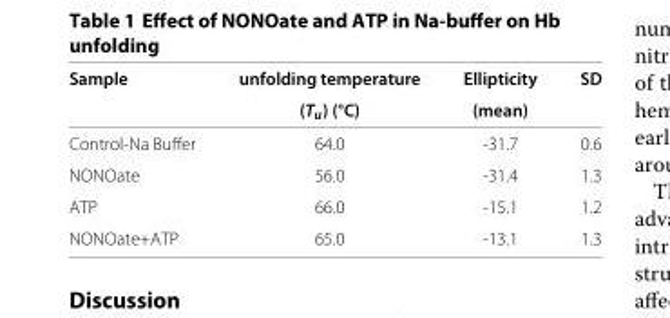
<table><thead><tr><td rowspan="2">Sample</td><td rowspan="2">unfolding temperature (<sub>Tu</sub>) (°C)</td><td rowspan="2">Ellipticity (mean)</td><td rowspan="2">SD</td></tr><tr></tr></thead><tbody><tr><td>Control-Na Buffer</td><td>64.0</td><td>-31.7</td><td>0.6</td></tr><tr><td>NONOate</td><td>56.0</td><td>-31.4</td><td>1.3</td></tr><tr><td>ATP</td><td>66.0</td><td>-15.1</td><td>1.2</td></tr><tr><td>NONOate+ATP</td><td>65.0</td><td>-13.1</td><td>1.3</td></tr></tbody></table>